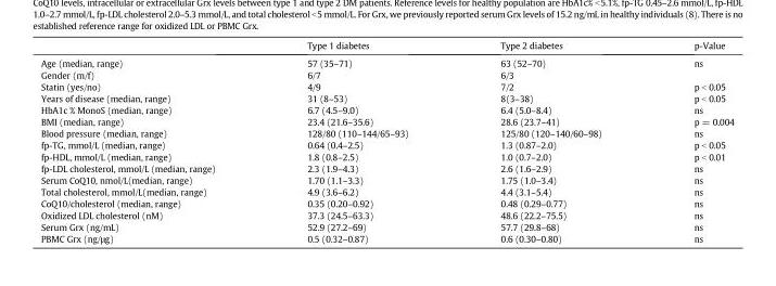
<table><thead><tr><td></td><td>Type 1 diabetes</td><td>Type 2 diabetes</td><td>p-Value</td></tr></thead><tbody><tr><td>Age (median, range)</td><td>57 (35–71)</td><td>63 (52–70)</td><td>ns</td></tr><tr><td>Gender (m/f)</td><td>6/7</td><td>6/3</td><td></td></tr><tr><td>Statin (yes/no)</td><td>4/9</td><td>7/2</td><td>p &lt; 0.05</td></tr><tr><td>Years of disease (median, range)</td><td>31 (8–53)</td><td>8(3–38)</td><td>p &lt; 0.05</td></tr><tr><td>HbA1c % MonoS (median, range)</td><td>6.7 (4.5–9.0)</td><td>6.4 (5.0–8.4)</td><td>ns</td></tr><tr><td>BMI (median, range)</td><td>23.4 (21.6–35.6)</td><td>28.6 (23.7–41)</td><td>p = 0.004</td></tr><tr><td>Blood pressure (median, range)</td><td>128/80 (110–144/65–93)</td><td>125/80 (120–140/60–98)</td><td>ns</td></tr><tr><td>fp-TG, mmol/L (median, range)</td><td>0.64 (0.4–2.5)</td><td>1.3 (0.87–2.0)</td><td>p &lt; 0.05</td></tr><tr><td>fp-HDL, mmol/L (median, range)</td><td>1.8 (0.8–2.5)</td><td>1.0 (0.7–2.0)</td><td>p &lt; 0.01</td></tr><tr><td>fp-LDL cholesterol, mmol/L (median, range)</td><td>2.3 (1.9–4.3)</td><td>2.6 (1.6–2.9)</td><td>ns</td></tr><tr><td>Serum CoQ10, nmol/L(median, range)</td><td>1.70 (1.1–3.3)</td><td>1.75 (1.0–3.4)</td><td>ns</td></tr><tr><td>Total cholesterol, mmol/L(median, range)</td><td>4.9 (3.6–6.2)</td><td>4.4 (3.1–5.4)</td><td>ns</td></tr><tr><td>CoQ10/cholesterol (median, range)</td><td>0.35 (0.20–0.92)</td><td>0.48 (0.29–0.77)</td><td>ns</td></tr><tr><td>Oxidized LDL cholesterol (nM)</td><td>37.3 (24.5–63.3)</td><td>48.6 (22.2–75.5)</td><td>ns</td></tr><tr><td>Serum Grx (ng/mL)</td><td>52.9 (27.2–69)</td><td>57.7 (29.8–68)</td><td>ns</td></tr><tr><td>PBMC Grx (ng/μg)</td><td>0.5 (0.32–0.87)</td><td>0.6 (0.30–0.80)</td><td>ns</td></tr></tbody></table>